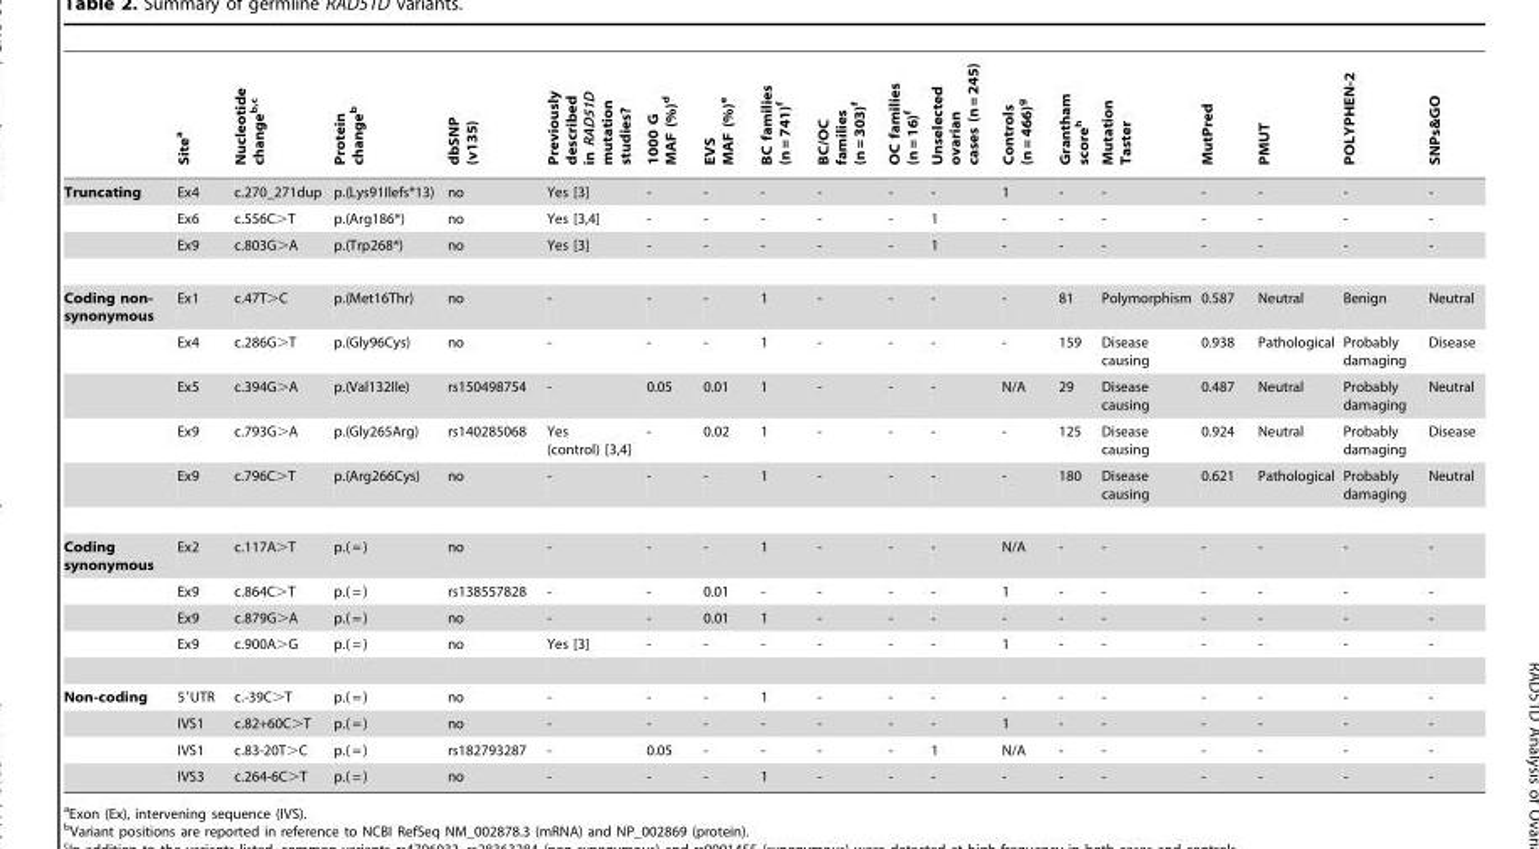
<table><thead><tr><td></td><td>Site<sup>a</sup></td><td>Nucleotide change<sup>b,</sup>c</td><td>Protein change<sup>b</sup></td><td>dbSNP (v135)</td><td>Previously described in RAD51D mutation studies?</td><td>1000 G MAF (%)<sup>d</sup></td><td>EVS MAF (%)<sup>e</sup></td><td>BC families (n = 741)<sup>f</sup></td><td>BC/OC families (n = 303)<sup>f</sup></td><td>OC families (n = 16)<sup>f</sup></td><td>Unselected ovarian cases (n = 245)</td><td>Controls (n = 466)<sup>g</sup></td><td>Grantham score<sup>h</sup></td><td>Mutation Taster</td><td>MutPred</td><td>PMUT</td><td>POLYPHEN-2</td><td>SNPs&amp;GO</td></tr></thead><tbody><tr><td rowspan="3">Truncating</td><td>Ex4</td><td>c.270_271dup</td><td>p.(Lys91Ilefs*13)</td><td>no</td><td>Yes [3]</td><td>-</td><td>-</td><td>-</td><td>-</td><td>-</td><td>-</td><td>1</td><td>-</td><td>-</td><td>-</td><td>-</td><td>-</td><td>-</td></tr><tr><td>Ex6</td><td>c.556C&gt;T</td><td>p.(Arg186*)</td><td>no</td><td>Yes [3,4]</td><td>-</td><td>-</td><td>-</td><td>-</td><td>-</td><td>1</td><td>-</td><td>-</td><td>-</td><td>-</td><td>-</td><td>-</td><td>-</td></tr><tr><td>Ex9</td><td>c.803G&gt;A</td><td>p.(Trp268*)</td><td>no</td><td>Yes [3]</td><td>-</td><td>-</td><td>-</td><td>-</td><td>-</td><td>1</td><td>-</td><td>-</td><td>-</td><td>-</td><td>-</td><td>-</td><td>-</td></tr><tr><td rowspan="5">Coding non- synonymous</td><td>Ex1</td><td>c.47T&gt;C</td><td>p.(Met16Thr)</td><td>no</td><td>-</td><td>-</td><td>-</td><td>1</td><td>-</td><td>-</td><td>-</td><td>-</td><td>81</td><td>Polymorphism</td><td>0.587</td><td>Neutral</td><td>Benign</td><td>Neutral</td></tr><tr><td>Ex4</td><td>c.286G&gt;T</td><td>p.(Gly96Cys)</td><td>no</td><td>-</td><td>-</td><td>-</td><td>1</td><td>-</td><td>-</td><td>-</td><td>-</td><td>159</td><td>Disease causing</td><td>0.938</td><td>Pathological</td><td>Probably damaging</td><td>Disease</td></tr><tr><td>Ex5</td><td>c.394G&gt;A</td><td>p.(Val132Ile)</td><td>rs150498754</td><td>-</td><td>0.05</td><td>0.01</td><td>1</td><td>-</td><td>-</td><td>-</td><td>N/A</td><td>29</td><td>Disease causing</td><td>0.487</td><td>Neutral</td><td>Probably damaging</td><td>Neutral</td></tr><tr><td>Ex9</td><td>c.793G&gt;A</td><td>p.(Gly265Arg)</td><td>rs140285068</td><td>Yes (control) [3,4]</td><td>-</td><td>0.02</td><td>1</td><td>-</td><td>-</td><td>-</td><td>-</td><td>125</td><td>Disease causing</td><td>0.924</td><td>Neutral</td><td>Probably damaging</td><td>Disease</td></tr><tr><td>Ex9</td><td>c.796C&gt;T</td><td>p.(Arg266Cys)</td><td>no</td><td>-</td><td>-</td><td>-</td><td>1</td><td>-</td><td>-</td><td>-</td><td>-</td><td>180</td><td>Disease causing</td><td>0.621</td><td>Pathological</td><td>Probably damaging</td><td>Neutral</td></tr><tr><td rowspan="4">Coding synonymous</td><td>Ex2</td><td>c.117A&gt;T</td><td>p.( = )</td><td>no</td><td>-</td><td>-</td><td>-</td><td>1</td><td>-</td><td>-</td><td>-</td><td>N/A</td><td>-</td><td>-</td><td>-</td><td>-</td><td>-</td><td>-</td></tr><tr><td>Ex9</td><td>c.864C&gt;T</td><td>p.( = )</td><td>rs138557828</td><td>-</td><td>-</td><td>0.01</td><td>-</td><td>-</td><td>-</td><td>-</td><td>1</td><td>-</td><td>-</td><td>-</td><td>-</td><td>-</td><td>-</td></tr><tr><td>Ex9</td><td>c.879G&gt;A</td><td>p.( = )</td><td>no</td><td>-</td><td>-</td><td>0.01</td><td>1</td><td>-</td><td>-</td><td>-</td><td>-</td><td>-</td><td>-</td><td>-</td><td>-</td><td>-</td><td>-</td></tr><tr><td>Ex9</td><td>c.900A&gt;G</td><td>p.( = )</td><td>no</td><td>Yes [3]</td><td>-</td><td>-</td><td>-</td><td>-</td><td>-</td><td>-</td><td>1</td><td>-</td><td>-</td><td>-</td><td>-</td><td>-</td><td>-</td></tr><tr><td rowspan="4">Non-coding</td><td>5′UTR</td><td>c.-39C&gt;T</td><td>p.( = )</td><td>no</td><td>-</td><td>-</td><td>-</td><td>1</td><td>-</td><td>-</td><td>-</td><td>-</td><td>-</td><td>-</td><td>-</td><td>-</td><td>-</td><td>-</td></tr><tr><td>IVS1</td><td>c.82+60C&gt;T</td><td>p.( = )</td><td>no</td><td>-</td><td>-</td><td>-</td><td>-</td><td>-</td><td>-</td><td>-</td><td>1</td><td>-</td><td>-</td><td>-</td><td>-</td><td>-</td><td>-</td></tr><tr><td>IVS1</td><td>c.83-20T&gt;C</td><td>p.( = )</td><td>rs182793287</td><td>-</td><td>0.05</td><td>-</td><td>-</td><td>-</td><td>-</td><td>1</td><td>N/A</td><td>-</td><td>-</td><td>-</td><td>-</td><td>-</td><td>-</td></tr><tr><td>IVS3</td><td>c.264-6C&gt;T</td><td>p.( = )</td><td>no</td><td>-</td><td>-</td><td>-</td><td>1</td><td>-</td><td>-</td><td>-</td><td>-</td><td>-</td><td>-</td><td>-</td><td>-</td><td>-</td><td>-</td></tr></tbody></table>